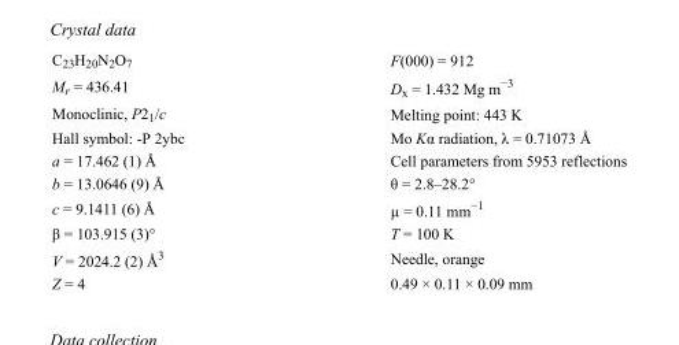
<table><tbody><tr><td>C<sub>23</sub>H<sub>20</sub>N<sub>2</sub>O<sub>7</sub></td><td>F(000) = 912</td></tr><tr><td>M<sub>r</sub> = 436.41</td><td>D<sub>x</sub> = 1.432 Mg m<sup>−3</sup></td></tr><tr><td>Monoclinic, P2<sub>1</sub>/c</td><td>Melting point: 443 K</td></tr><tr><td>Hall symbol: -P 2ybc</td><td>Mo Kα radiation, λ = 0.71073 Å</td></tr><tr><td>a = 17.462 (1) Å</td><td>Cell parameters from 5953 reflections</td></tr><tr><td>b = 13.0646 (9) Å</td><td>θ = 2.8–28.2°</td></tr><tr><td>c = 9.1411 (6) Å</td><td>µ = 0.11 mm<sup>−1</sup></td></tr><tr><td>β = 103.915 (3)°</td><td>T = 100 K</td></tr><tr><td>V = 2024.2 (2) Å<sup>3</sup></td><td>Needle, orange</td></tr><tr><td>Z = 4</td><td>0.49 × 0.11 × 0.09 mm</td></tr></tbody></table>